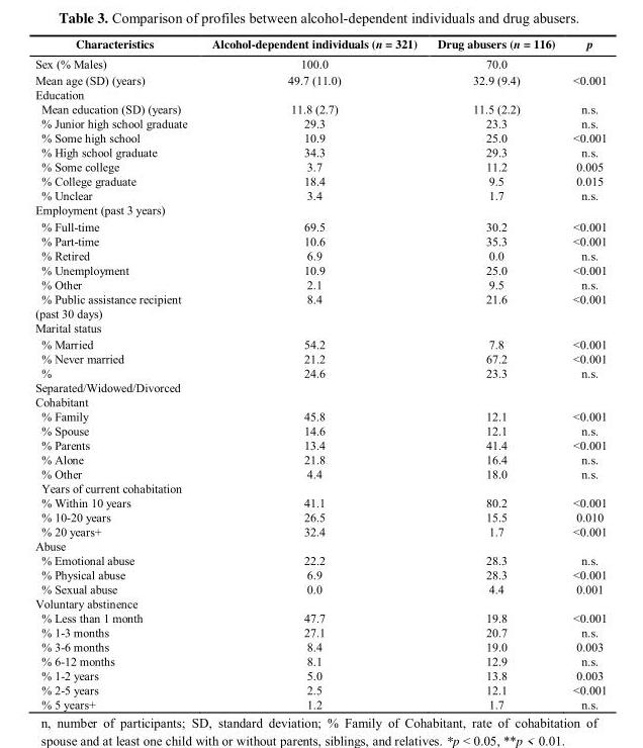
<table><thead><tr><td>Characteristics</td><td>Alcohol-dependent individuals (n = 321)</td><td>Drug abusers (n = 116)</td><td>p</td></tr></thead><tbody><tr><td>Sex (% Males)</td><td>100.0</td><td>70.0</td><td></td></tr><tr><td>Mean age (SD) (years)</td><td>49.7 (11.0)</td><td>32.9 (9.4)</td><td>&lt;0.001</td></tr><tr><td colspan="4">Education</td></tr><tr><td>Mean education (SD) (years)</td><td>11.8 (2.7)</td><td>11.5 (2.2)</td><td>n.s.</td></tr><tr><td>% Junior high school graduate</td><td>29.3</td><td>23.3</td><td>n.s.</td></tr><tr><td>% Some high school</td><td>10.9</td><td>25.0</td><td>&lt;0.001</td></tr><tr><td>% High school graduate</td><td>34.3</td><td>29.3</td><td>n.s.</td></tr><tr><td>% Some college</td><td>3.7</td><td>11.2</td><td>0.005</td></tr><tr><td>% College graduate</td><td>18.4</td><td>9.5</td><td>0.015</td></tr><tr><td>% Unclear</td><td>3.4</td><td>1.7</td><td>n.s.</td></tr><tr><td colspan="4">Employment (past 3 years)</td></tr><tr><td>% Full-time</td><td>69.5</td><td>30.2</td><td>&lt;0.001</td></tr><tr><td>% Part-time</td><td>10.6</td><td>35.3</td><td>&lt;0.001</td></tr><tr><td>% Retired</td><td>6.9</td><td>0.0</td><td>n.s.</td></tr><tr><td>% Unemployment</td><td>10.9</td><td>25.0</td><td>&lt;0.001</td></tr><tr><td>% Other</td><td>2.1</td><td>9.5</td><td>n.s.</td></tr><tr><td>% Public assistance recipient (past 30 days)</td><td>8.4</td><td>21.6</td><td>&lt;0.001</td></tr><tr><td colspan="4">Marital status</td></tr><tr><td>% Married</td><td>54.2</td><td>7.8</td><td>&lt;0.001</td></tr><tr><td>% Never married</td><td>21.2</td><td>67.2</td><td>&lt;0.001</td></tr><tr><td>%</td><td>24.6</td><td>23.3</td><td>n.s.</td></tr><tr><td colspan="4">Separated/Widowed/Divorced Cohabitant</td></tr><tr><td>% Family</td><td>45.8</td><td>12.1</td><td>&lt;0.001</td></tr><tr><td>% Spouse</td><td>14.6</td><td>12.1</td><td>n.s.</td></tr><tr><td>% Parents</td><td>13.4</td><td>41.4</td><td>&lt;0.001</td></tr><tr><td>% Alone</td><td>21.8</td><td>16.4</td><td>n.s.</td></tr><tr><td>% Other</td><td>4.4</td><td>18.0</td><td>n.s.</td></tr><tr><td colspan="4">Years of current cohabitation</td></tr><tr><td>% Within 10 years</td><td>41.1</td><td>80.2</td><td>&lt;0.001</td></tr><tr><td>% 10-20 years</td><td>26.5</td><td>15.5</td><td>0.010</td></tr><tr><td>% 20 years+</td><td>32.4</td><td>1.7</td><td>&lt;0.001</td></tr><tr><td colspan="4">Abuse</td></tr><tr><td>% Emotional abuse</td><td>22.2</td><td>28.3</td><td>n.s.</td></tr><tr><td>% Physical abuse</td><td>6.9</td><td>28.3</td><td>&lt;0.001</td></tr><tr><td>% Sexual abuse</td><td>0.0</td><td>4.4</td><td>0.001</td></tr><tr><td colspan="4">Voluntary abstinence</td></tr><tr><td>% Less than 1 month</td><td>47.7</td><td>19.8</td><td>&lt;0.001</td></tr><tr><td>% 1-3 months</td><td>27.1</td><td>20.7</td><td>n.s.</td></tr><tr><td>% 3-6 months</td><td>8.4</td><td>19.0</td><td>0.003</td></tr><tr><td>% 6-12 months</td><td>8.1</td><td>12.9</td><td>n.s.</td></tr><tr><td>% 1-2 years</td><td>5.0</td><td>13.8</td><td>0.003</td></tr><tr><td>% 2-5 years</td><td>2.5</td><td>12.1</td><td>&lt;0.001</td></tr><tr><td>% 5 years+</td><td>1.2</td><td>1.7</td><td>n.s.</td></tr></tbody></table>